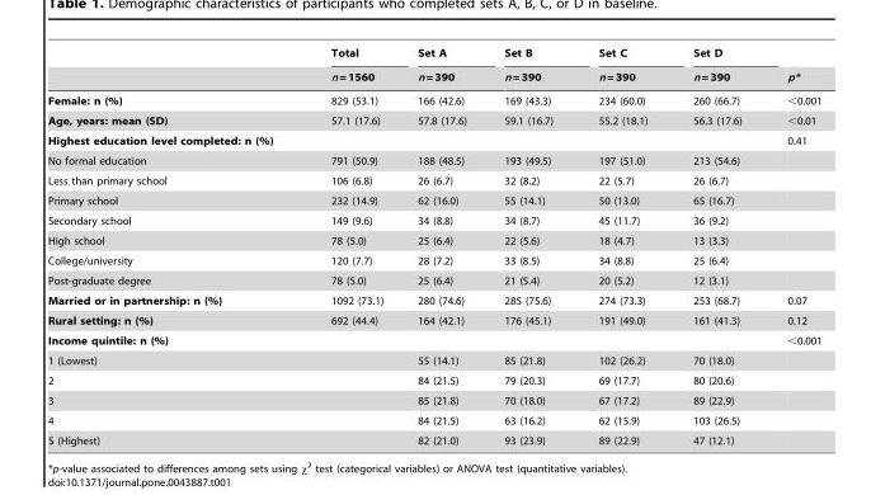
<table><thead><tr><td rowspan="2"></td><td rowspan="2">Total n = 1560</td><td rowspan="2">Set A n = 390</td><td rowspan="2">Set B n = 390</td><td rowspan="2">Set C n = 390</td><td rowspan="2">Set D n = 390</td><td rowspan="2">p*</td></tr><tr></tr></thead><tbody><tr><td>Female: n (%)</td><td>829 (53.1)</td><td>166 (42.6)</td><td>169 (43.3)</td><td>234 (60.0)</td><td>260 (66.7)</td><td>&lt;0.001</td></tr><tr><td>Age, years: mean (SD)</td><td>57.1 (17.6)</td><td>57.8 (17.6)</td><td>59.1 (16.7)</td><td>55.2 (18.1)</td><td>56.3 (17.6)</td><td>&lt;0.01</td></tr><tr><td>Highest education level completed: n (%)</td><td></td><td></td><td></td><td></td><td></td><td>0.41</td></tr><tr><td>No formal education</td><td>791 (50.9)</td><td>188 (48.5)</td><td>193 (49.5)</td><td>197 (51.0)</td><td>213 (54.6)</td><td></td></tr><tr><td>Less than primary school</td><td>106 (6.8)</td><td>26 (6.7)</td><td>32 (8.2)</td><td>22 (5.7)</td><td>26 (6.7)</td><td></td></tr><tr><td>Primary school</td><td>232 (14.9)</td><td>62 (16.0)</td><td>55 (14.1)</td><td>50 (13.0)</td><td>65 (16.7)</td><td></td></tr><tr><td>Secondary school</td><td>149 (9.6)</td><td>34 (8.8)</td><td>34 (8.7)</td><td>45 (11.7)</td><td>36 (9.2)</td><td></td></tr><tr><td>High school</td><td>78 (5.0)</td><td>25 (6.4)</td><td>22 (5.6)</td><td>18 (4.7)</td><td>13 (3.3)</td><td></td></tr><tr><td>College/university</td><td>120 (7.7)</td><td>28 (7.2)</td><td>33 (8.5)</td><td>34 (8.8)</td><td>25 (6.4)</td><td></td></tr><tr><td>Post-graduate degree</td><td>78 (5.0)</td><td>25 (6.4)</td><td>21 (5.4)</td><td>20 (5.2)</td><td>12 (3.1)</td><td></td></tr><tr><td>Married or in partnership: n (%)</td><td>1092 (73.1)</td><td>280 (74.6)</td><td>285 (75.6)</td><td>274 (73.3)</td><td>253 (68.7)</td><td>0.07</td></tr><tr><td>Rural setting: n (%)</td><td>692 (44.4)</td><td>164 (42.1)</td><td>176 (45.1)</td><td>191 (49.0)</td><td>161 (41.3)</td><td>0.12</td></tr><tr><td>Income quintile: n (%)</td><td></td><td></td><td></td><td></td><td></td><td>&lt;0.001</td></tr><tr><td>1 (Lowest)</td><td></td><td>55 (14.1)</td><td>85 (21.8)</td><td>102 (26.2)</td><td>70 (18.0)</td><td></td></tr><tr><td>2</td><td></td><td>84 (21.5)</td><td>79 (20.3)</td><td>69 (17.7)</td><td>80 (20.6)</td><td></td></tr><tr><td>3</td><td></td><td>85 (21.8)</td><td>70 (18.0)</td><td>67 (17.2)</td><td>89 (22.9)</td><td></td></tr><tr><td>4</td><td></td><td>84 (21.5)</td><td>63 (16.2)</td><td>62 (15.9)</td><td>103 (26.5)</td><td></td></tr><tr><td>5 (Highest)</td><td></td><td>82 (21.0)</td><td>93 (23.9)</td><td>89 (22.9)</td><td>47 (12.1)</td><td></td></tr></tbody></table>